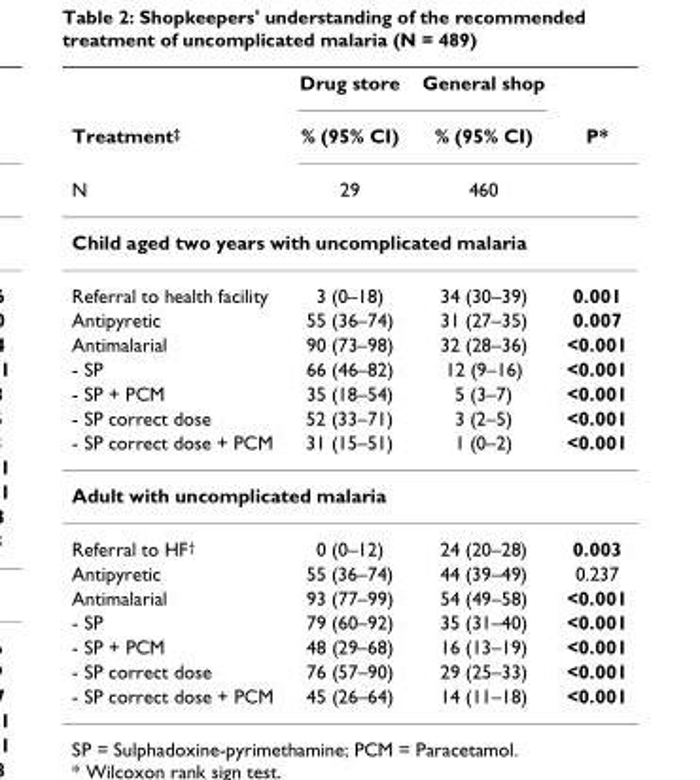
<table><thead><tr><td rowspan="3">Treatment‡ N</td><td rowspan="3">Drug store % (95% CI) 29</td><td rowspan="3">General shop % (95% CI) 460</td><td rowspan="3">P*</td></tr><tr></tr><tr></tr></thead><tbody><tr><td colspan="4">Child aged two years with uncomplicated malaria</td></tr><tr><td>Referral to health facility</td><td>3 (0–18)</td><td>34 (30–39)</td><td>0.001</td></tr><tr><td>Antipyretic</td><td>55 (36–74)</td><td>31 (27–35)</td><td>0.007</td></tr><tr><td>Antimalarial</td><td>90 (73–98)</td><td>32 (28–36)</td><td>&lt;0.001</td></tr><tr><td>- SP</td><td>66 (46–82)</td><td>12 (9–16)</td><td>&lt;0.001</td></tr><tr><td>- SP + PCM</td><td>35 (18–54)</td><td>5 (3–7)</td><td>&lt;0.001</td></tr><tr><td>- SP correct dose</td><td>52 (33–71)</td><td>3 (2–5)</td><td>&lt;0.001</td></tr><tr><td>- SP correct dose + PCM</td><td>31 (15–51)</td><td>1 (0–2)</td><td>&lt;0.001</td></tr><tr><td colspan="4">Adult with uncomplicated malaria</td></tr><tr><td>Referral to HF<sup>†</sup></td><td>0 (0–12)</td><td>24 (20–28)</td><td>0.003</td></tr><tr><td>Antipyretic</td><td>55 (36–74)</td><td>44 (39–49)</td><td>0.237</td></tr><tr><td>Antimalarial</td><td>93 (77–99)</td><td>54 (49–58)</td><td>&lt;0.001</td></tr><tr><td>- SP</td><td>79 (60–92)</td><td>35 (31–40)</td><td>&lt;0.001</td></tr><tr><td>- SP + PCM</td><td>48 (29–68)</td><td>16 (13–19)</td><td>&lt;0.001</td></tr><tr><td>- SP correct dose</td><td>76 (57–90)</td><td>29 (25–33)</td><td>&lt;0.001</td></tr><tr><td>- SP correct dose + PCM</td><td>45 (26–64)</td><td>14 (11–18)</td><td>&lt;0.001</td></tr></tbody></table>